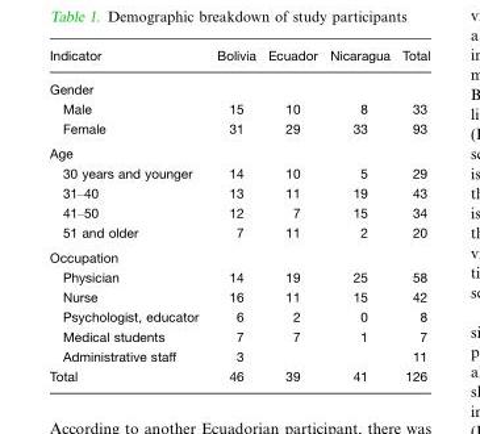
<table><thead><tr><td>Indicator</td><td>Bolivia</td><td>Ecuador</td><td>Nicaragua</td><td>Total</td></tr></thead><tbody><tr><td colspan="5">Gender</td></tr><tr><td>Male</td><td>15</td><td>10</td><td>8</td><td>33</td></tr><tr><td>Female</td><td>31</td><td>29</td><td>33</td><td>93</td></tr><tr><td colspan="5">Age</td></tr><tr><td>30 years and younger</td><td>14</td><td>10</td><td>5</td><td>29</td></tr><tr><td>31–40</td><td>13</td><td>11</td><td>19</td><td>43</td></tr><tr><td>41–50</td><td>12</td><td>7</td><td>15</td><td>34</td></tr><tr><td>51 and older</td><td>7</td><td>11</td><td>2</td><td>20</td></tr><tr><td colspan="5">Occupation</td></tr><tr><td>Physician</td><td>14</td><td>19</td><td>25</td><td>58</td></tr><tr><td>Nurse</td><td>16</td><td>11</td><td>15</td><td>42</td></tr><tr><td>Psychologist, educator</td><td>6</td><td>2</td><td>0</td><td>8</td></tr><tr><td>Medical students</td><td>7</td><td>7</td><td>1</td><td>7</td></tr><tr><td>Administrative staff</td><td>3</td><td></td><td></td><td>11</td></tr><tr><td>Total</td><td>46</td><td>39</td><td>41</td><td>126</td></tr></tbody></table>